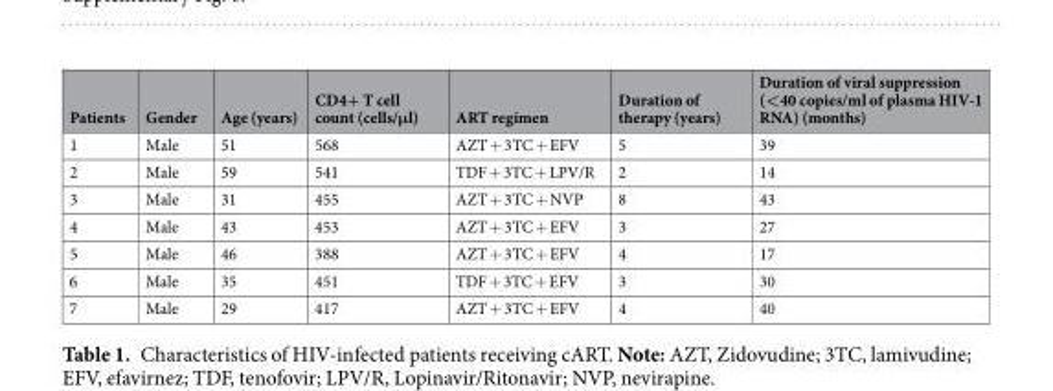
<table><thead><tr><td>Patients</td><td>Gender</td><td>Age (years)</td><td>CD4+ T cell count (cells/μl)</td><td>ART regimen</td><td>Duration of therapy (years)</td><td>Duration of viral suppression (&lt;40 copies/ml of plasma HIV-1 RNA) (months)</td></tr></thead><tbody><tr><td>1</td><td>Male</td><td>51</td><td>568</td><td>AZT + 3TC + EFV</td><td>5</td><td>39</td></tr><tr><td>2</td><td>Male</td><td>59</td><td>541</td><td>TDF + 3TC + LPV/R</td><td>2</td><td>14</td></tr><tr><td>3</td><td>Male</td><td>31</td><td>455</td><td>AZT + 3TC + NVP</td><td>8</td><td>43</td></tr><tr><td>4</td><td>Male</td><td>43</td><td>453</td><td>AZT + 3TC + EFV</td><td>3</td><td>27</td></tr><tr><td>5</td><td>Male</td><td>46</td><td>388</td><td>AZT + 3TC + EFV</td><td>4</td><td>17</td></tr><tr><td>6</td><td>Male</td><td>35</td><td>451</td><td>TDF + 3TC + EFV</td><td>3</td><td>30</td></tr><tr><td>7</td><td>Male</td><td>29</td><td>417</td><td>AZT + 3TC + EFV</td><td>4</td><td>40</td></tr></tbody></table>